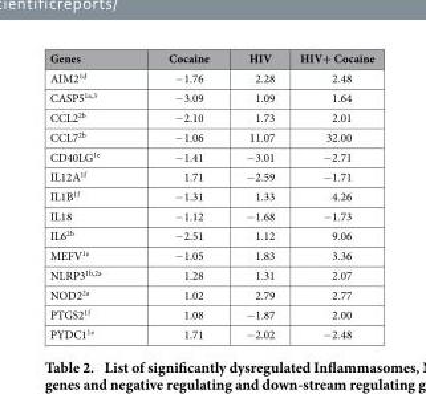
<table><thead><tr><td>Genes</td><td>Cocaine</td><td>HIV</td><td>HIV+ Cocaine</td></tr></thead><tbody><tr><td>AIM2<sup>1d</sup></td><td>−1.76</td><td>2.28</td><td>2.48</td></tr><tr><td>CASP5<sup>1a,3</sup></td><td>−3.09</td><td>1.09</td><td>1.64</td></tr><tr><td>CCL2<sup>2b</sup></td><td>−2.10</td><td>1.73</td><td>2.01</td></tr><tr><td>CCL7<sup>2b</sup></td><td>−1.06</td><td>11.07</td><td>32.00</td></tr><tr><td>CD40LG<sup>1e</sup></td><td>−1.41</td><td>−3.01</td><td>−2.71</td></tr><tr><td>IL12A<sup>1f</sup></td><td>1.71</td><td>−2.59</td><td>−1.71</td></tr><tr><td>IL1B<sup>1f</sup></td><td>−1.31</td><td>1.33</td><td>4.26</td></tr><tr><td>IL18</td><td>−1.12</td><td>−1.68</td><td>−1.73</td></tr><tr><td>IL6<sup>2b</sup></td><td>−2.51</td><td>1.12</td><td>9.06</td></tr><tr><td>MEFV<sup>1e</sup></td><td>−1.05</td><td>1.83</td><td>3.36</td></tr><tr><td>NLRP3<sup>1b,2a</sup></td><td>1.28</td><td>1.31</td><td>2.07</td></tr><tr><td>NOD2<sup>2a</sup></td><td>1.02</td><td>2.79</td><td>2.77</td></tr><tr><td>PTGS2<sup>1f</sup></td><td>1.08</td><td>−1.87</td><td>2.00</td></tr><tr><td>PYDC1<sup>1e</sup></td><td>1.71</td><td>−2.02</td><td>−2.48</td></tr></tbody></table>